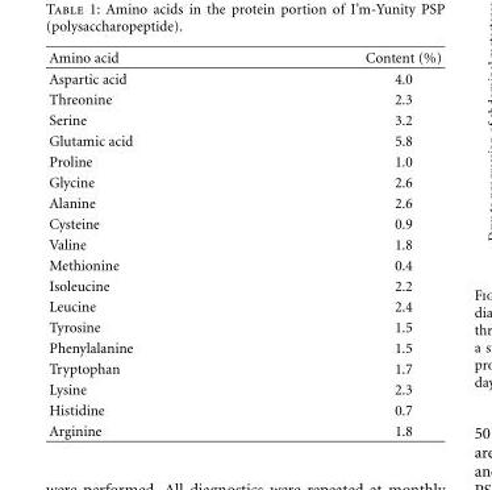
<table><thead><tr><td>Amino acid</td><td>Content (%)</td></tr></thead><tbody><tr><td>Aspartic acid</td><td>4.0</td></tr><tr><td>Threonine</td><td>2.3</td></tr><tr><td>Serine</td><td>3.2</td></tr><tr><td>Glutamic acid</td><td>5.8</td></tr><tr><td>Proline</td><td>1.0</td></tr><tr><td>Glycine</td><td>2.6</td></tr><tr><td>Alanine</td><td>2.6</td></tr><tr><td>Cysteine</td><td>0.9</td></tr><tr><td>Valine</td><td>1.8</td></tr><tr><td>Methionine</td><td>0.4</td></tr><tr><td>Isoleucine</td><td>2.2</td></tr><tr><td>Leucine</td><td>2.4</td></tr><tr><td>Tyrosine</td><td>1.5</td></tr><tr><td>Phenylalanine</td><td>1.5</td></tr><tr><td>Tryptophan</td><td>1.7</td></tr><tr><td>Lysine</td><td>2.3</td></tr><tr><td>Histidine</td><td>0.7</td></tr><tr><td>Arginine</td><td>1.8</td></tr></tbody></table>